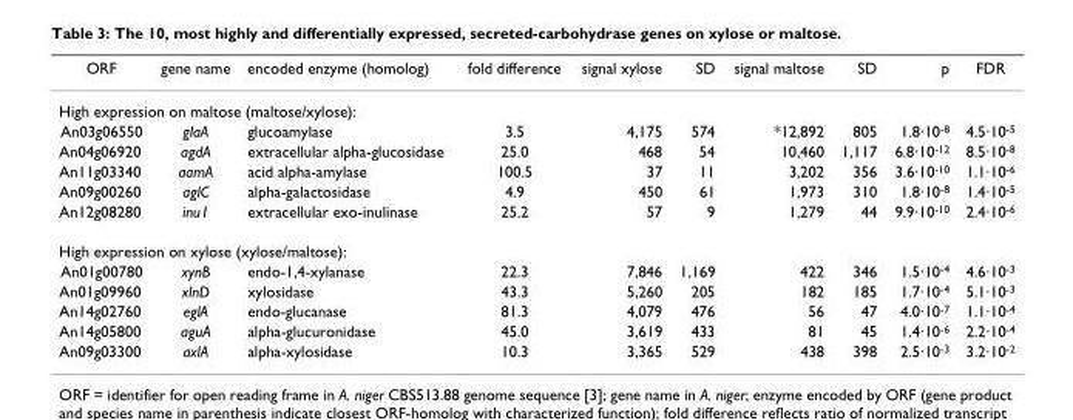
<table><thead><tr><td>ORF</td><td>gene name</td><td>encoded enzyme (homolog)</td><td>fold difference</td><td>signal xylose</td><td>SD</td><td>signal maltose</td><td>SD</td><td>p</td><td>FDR</td></tr></thead><tbody><tr><td colspan="10">High expression on maltose (maltose/xylose):</td></tr><tr><td>An03g06550</td><td>glaA</td><td>glucoamylase</td><td>3.5</td><td>4,175</td><td>574</td><td>*12,892</td><td>805</td><td>1.8·10<sup>-8</sup></td><td>4.5·10<sup>-5</sup></td></tr><tr><td>An04g06920</td><td>agdA</td><td>extracellular alpha-glucosidase</td><td>25.0</td><td>468</td><td>54</td><td>10,460</td><td>1,117</td><td>6.8·10<sup>-12</sup></td><td>8.5·10<sup>-8</sup></td></tr><tr><td>An11g03340</td><td>aamA</td><td>acid alpha-amylase</td><td>100.5</td><td>37</td><td>11</td><td>3,202</td><td>356</td><td>3.6·10<sup>-10</sup></td><td>1.1·10<sup>-6</sup></td></tr><tr><td>An09g00260</td><td>aglC</td><td>alpha-galactosidase</td><td>4.9</td><td>450</td><td>61</td><td>1,973</td><td>310</td><td>1.8·10<sup>-8</sup></td><td>1.4·10<sup>-5</sup></td></tr><tr><td>An12g08280</td><td>inu1</td><td>extracellular exo-inulinase</td><td>25.2</td><td>57</td><td>9</td><td>1,279</td><td>44</td><td>9.9·10<sup>-10</sup></td><td>2.4·10<sup>-6</sup></td></tr><tr><td colspan="10">High expression on xylose (xylose/maltose):</td></tr><tr><td>An01g00780</td><td>xynB</td><td>endo-1,4-xylanase</td><td>22.3</td><td>7,846</td><td>1,169</td><td>422</td><td>346</td><td>1.5·10<sup>-4</sup></td><td>4.6·10<sup>-3</sup></td></tr><tr><td>An01g09960</td><td>xlnD</td><td>xylosidase</td><td>43.3</td><td>5,260</td><td>205</td><td>182</td><td>185</td><td>1.7·10<sup>-4</sup></td><td>5.1·10<sup>-3</sup></td></tr><tr><td>An14g02760</td><td>eglA</td><td>endo-glucanase</td><td>81.3</td><td>4,079</td><td>476</td><td>56</td><td>47</td><td>4.0·10<sup>-7</sup></td><td>1.1·10<sup>-4</sup></td></tr><tr><td>An14g05800</td><td>aguA</td><td>alpha-glucuronidase</td><td>45.0</td><td>3,619</td><td>433</td><td>81</td><td>45</td><td>1.4·10<sup>-6</sup></td><td>2.2·10<sup>-4</sup></td></tr><tr><td>An09g03300</td><td>axlA</td><td>alpha-xylosidase</td><td>10.3</td><td>3,365</td><td>529</td><td>438</td><td>398</td><td>2.5·10<sup>-3</sup></td><td>3.2·10<sup>-2</sup></td></tr></tbody></table>